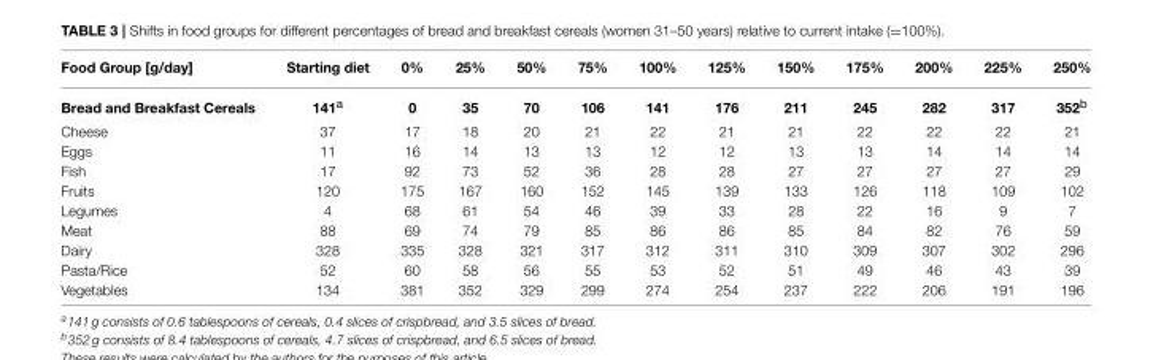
<table><thead><tr><td>Food Group [g/day]</td><td>Starting diet</td><td>0%</td><td>25%</td><td>50%</td><td>75%</td><td>100%</td><td>125%</td><td>150%</td><td>175%</td><td>200%</td><td>225%</td><td>250%</td></tr></thead><tbody><tr><td>Bread and Breakfast Cereals</td><td>141<sup>a</sup></td><td>0</td><td>35</td><td>70</td><td>106</td><td>141</td><td>176</td><td>211</td><td>245</td><td>282</td><td>317</td><td>352<sup>b</sup></td></tr><tr><td>Cheese</td><td>37</td><td>17</td><td>18</td><td>20</td><td>21</td><td>22</td><td>21</td><td>21</td><td>22</td><td>22</td><td>22</td><td>21</td></tr><tr><td>Eggs</td><td>11</td><td>16</td><td>14</td><td>13</td><td>13</td><td>12</td><td>12</td><td>13</td><td>13</td><td>14</td><td>14</td><td>14</td></tr><tr><td>Fish</td><td>17</td><td>92</td><td>73</td><td>52</td><td>36</td><td>28</td><td>28</td><td>27</td><td>27</td><td>27</td><td>27</td><td>29</td></tr><tr><td>Fruits</td><td>120</td><td>175</td><td>167</td><td>160</td><td>152</td><td>145</td><td>139</td><td>133</td><td>126</td><td>118</td><td>109</td><td>102</td></tr><tr><td>Legumes</td><td>4</td><td>68</td><td>61</td><td>54</td><td>46</td><td>39</td><td>33</td><td>28</td><td>22</td><td>16</td><td>9</td><td>7</td></tr><tr><td>Meat</td><td>88</td><td>69</td><td>74</td><td>79</td><td>85</td><td>86</td><td>86</td><td>85</td><td>84</td><td>82</td><td>76</td><td>59</td></tr><tr><td>Dairy</td><td>328</td><td>335</td><td>328</td><td>321</td><td>317</td><td>312</td><td>311</td><td>310</td><td>309</td><td>307</td><td>302</td><td>296</td></tr><tr><td>Pasta/Rice</td><td>52</td><td>60</td><td>58</td><td>56</td><td>55</td><td>53</td><td>52</td><td>51</td><td>49</td><td>46</td><td>43</td><td>39</td></tr><tr><td>Vegetables</td><td>134</td><td>381</td><td>352</td><td>329</td><td>299</td><td>274</td><td>254</td><td>237</td><td>222</td><td>206</td><td>191</td><td>196</td></tr></tbody></table>